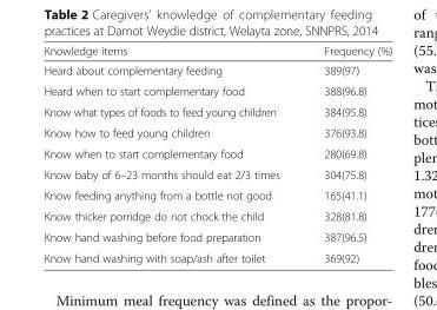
<table><thead><tr><td>Knowledge items</td><td>Frequency (%)</td></tr></thead><tbody><tr><td>Heard about complementary feeding</td><td>389(97)</td></tr><tr><td>Heard when to start complementary food</td><td>388(96.8)</td></tr><tr><td>Know what types of foods to feed young children</td><td>384(95.8)</td></tr><tr><td>Know how to feed young children</td><td>376(93.8)</td></tr><tr><td>Know when to start complementary food</td><td>280(69.8)</td></tr><tr><td>Know baby of 6–23 months should eat 2/3 times</td><td>304(75.8)</td></tr><tr><td>Know feeding anything from a bottle not good</td><td>165(41.1)</td></tr><tr><td>Know thicker porridge do not chock the child</td><td>328(81.8)</td></tr><tr><td>Know hand washing before food preparation</td><td>387(96.5)</td></tr><tr><td>Know hand washing with soap/ash after toilet</td><td>369(92)</td></tr></tbody></table>